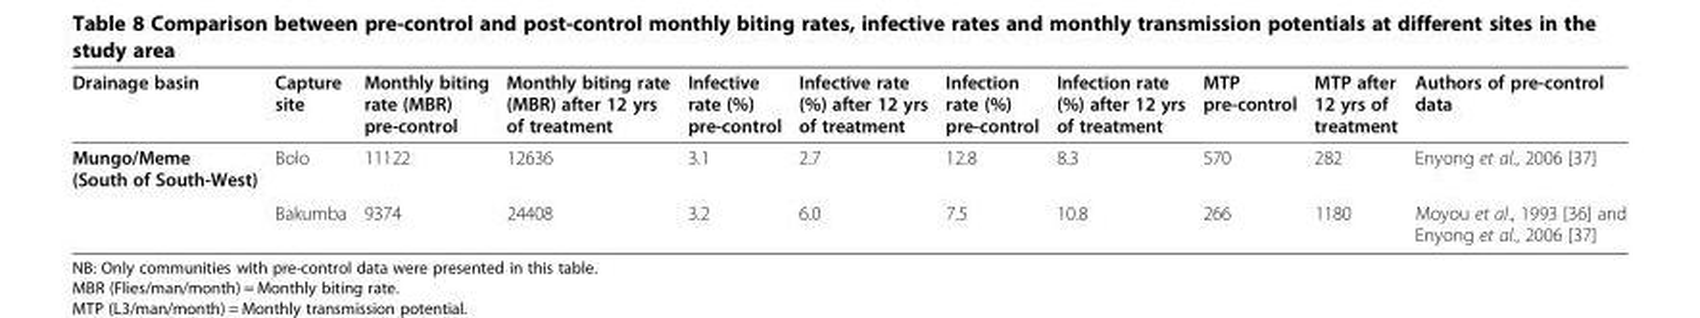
<table><thead><tr><td>Drainage basin</td><td>Capture site</td><td>Monthly biting rate (MBR) pre-control</td><td>Monthly biting rate (MBR) after 12 yrs of treatment</td><td>Infective rate (%) pre-control</td><td>Infective rate (%) after 12 yrs of treatment</td><td>Infection rate (%) pre-control</td><td>Infection rate (%) after 12 yrs of treatment</td><td>MTP pre-control</td><td>MTP after 12 yrs of treatment</td><td>Authors of pre-control data</td></tr></thead><tbody><tr><td rowspan="2">Mungo/Meme (South of South-West)</td><td>Bolo</td><td>11122</td><td>12636</td><td>3.1</td><td>2.7</td><td>12.8</td><td>8.3</td><td>570</td><td>282</td><td>Enyong et al., 2006 [37]</td></tr><tr><td>Bakumba</td><td>9374</td><td>24408</td><td>3.2</td><td>6.0</td><td>7.5</td><td>10.8</td><td>266</td><td>1180</td><td>Moyou et al., 1993 [36] and Enyong et al., 2006 [37]</td></tr></tbody></table>